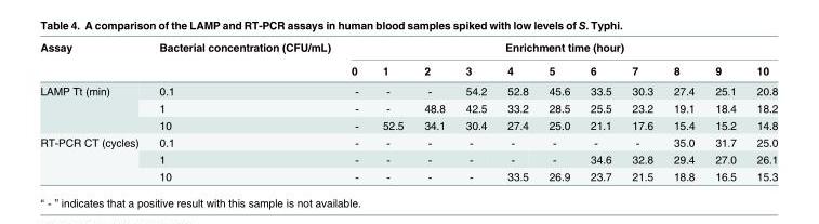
<table><thead><tr><td rowspan="2">Assay</td><td rowspan="2">Bacterial concentration (CFU/mL)</td><td colspan="11">Enrichment time (hour)</td></tr><tr><td>0</td><td>1</td><td>2</td><td>3</td><td>4</td><td>5</td><td>6</td><td>7</td><td>8</td><td>9</td><td>10</td></tr></thead><tbody><tr><td rowspan="3">LAMP Tt (min)</td><td>0.1</td><td>－</td><td>－</td><td>－</td><td>54.2</td><td>52.8</td><td>45.6</td><td>33.5</td><td>30.3</td><td>27.4</td><td>25.1</td><td>20.8</td></tr><tr><td>1</td><td>－</td><td>－</td><td>48.8</td><td>42.5</td><td>33.2</td><td>28.5</td><td>25.5</td><td>23.2</td><td>19.1</td><td>18.4</td><td>18.2</td></tr><tr><td>10</td><td>－</td><td>52.5</td><td>34.1</td><td>30.4</td><td>27.4</td><td>25.0</td><td>21.1</td><td>17.6</td><td>15.4</td><td>15.2</td><td>14.8</td></tr><tr><td rowspan="3">RT-PCR CT (cycles)</td><td>0.1</td><td>－</td><td>－</td><td>－</td><td>－</td><td>－</td><td>－</td><td>－</td><td>－</td><td>35.0</td><td>31.7</td><td>25.0</td></tr><tr><td>1</td><td>－</td><td>－</td><td>－</td><td>－</td><td>－</td><td>－</td><td>34.6</td><td>32.8</td><td>29.4</td><td>27.0</td><td>26.1</td></tr><tr><td>10</td><td>－</td><td>－</td><td>－</td><td>－</td><td>33.5</td><td>26.9</td><td>23.7</td><td>21.5</td><td>18.8</td><td>16.5</td><td>15.3</td></tr></tbody></table>